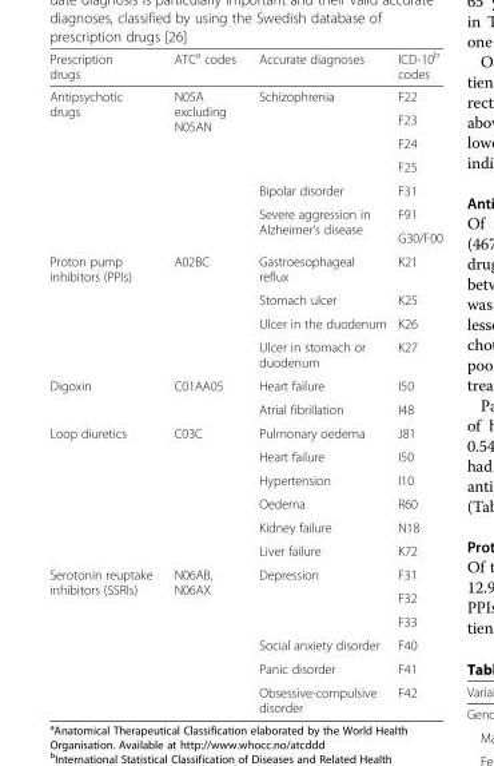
<table><thead><tr><td>Prescription drugs</td><td>ATC<sup>a</sup> codes</td><td>Accurate diagnoses</td><td>ICD-10<sup>b</sup> codes</td></tr></thead><tbody><tr><td rowspan="7">Antipsychotic drugs</td><td rowspan="4">N05A excluding N05AN</td><td rowspan="4">Schizophrenia</td><td>F22</td></tr><tr><td>F23</td></tr><tr><td>F24</td></tr><tr><td>F25</td></tr><tr><td></td><td>Bipolar disorder</td><td>F31</td></tr><tr><td rowspan="2"></td><td rowspan="2">Severe aggression in Alzheimer’s disease</td><td>F91</td></tr><tr><td>G30/F00</td></tr><tr><td rowspan="4">Proton pump inhibitors (PPIs)</td><td>A02BC</td><td>Gastroesophageal reflux</td><td>K21</td></tr><tr><td></td><td>Stomach ulcer</td><td>K25</td></tr><tr><td></td><td>Ulcer in the duodenum</td><td>K26</td></tr><tr><td></td><td>Ulcer in stomach or duodenum</td><td>K27</td></tr><tr><td rowspan="2">Digoxin</td><td>C01AA05</td><td>Heart failure</td><td>I50</td></tr><tr><td></td><td>Atrial fibrillation</td><td>I48</td></tr><tr><td rowspan="6">Loop diuretics</td><td>C03C</td><td>Pulmonary oedema</td><td>J81</td></tr><tr><td></td><td>Heart failure</td><td>I50</td></tr><tr><td></td><td>Hypertension</td><td>I10</td></tr><tr><td></td><td>Oedema</td><td>R60</td></tr><tr><td></td><td>Kidney failure</td><td>N18</td></tr><tr><td></td><td>Liver failure</td><td>K72</td></tr><tr><td rowspan="6">Serotonin reuptake inhibitors (SSRIs)</td><td rowspan="3">N06AB, N06AX</td><td rowspan="3">Depression</td><td>F31</td></tr><tr><td>F32</td></tr><tr><td>F33</td></tr><tr><td></td><td>Social anxiety disorder</td><td>F40</td></tr><tr><td></td><td>Panic disorder</td><td>F41</td></tr><tr><td></td><td>Obsessive-compulsive disorder</td><td>F42</td></tr></tbody></table>